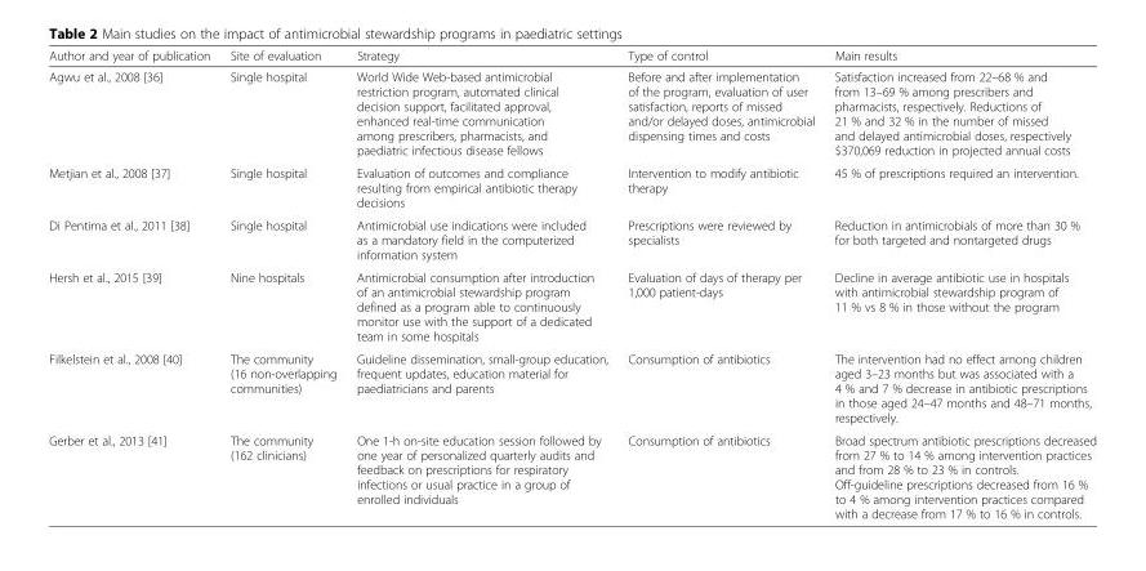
<table><thead><tr><td>Author and year of publication</td><td>Site of evaluation</td><td>Strategy</td><td>Type of control</td><td>Main results</td></tr></thead><tbody><tr><td>Agwu et al., 2008 [36]</td><td>Single hospital</td><td>World Wide Web-based antimicrobial restriction program, automated clinical decision support, facilitated approval, enhanced real-time communication among prescribers, pharmacists, and paediatric infectious disease fellows</td><td>Before and after implementation of the program, evaluation of user satisfaction, reports of missed and/or delayed doses, antimicrobial dispensing times and costs</td><td>Satisfaction increased from 22–68 % and from 13–69 % among prescribers and pharmacists, respectively. Reductions of 21 % and 32 % in the number of missed and delayed antimicrobial doses, respectively $370,069 reduction in projected annual costs</td></tr><tr><td>Metjian et al., 2008 [37]</td><td>Single hospital</td><td>Evaluation of outcomes and compliance resulting from empirical antibiotic therapy decisions</td><td>Intervention to modify antibiotic therapy</td><td>45 % of prescriptions required an intervention.</td></tr><tr><td>Di Pentima et al., 2011 [38]</td><td>Single hospital</td><td>Antimicrobial use indications were included as a mandatory field in the computerized information system</td><td>Prescriptions were reviewed by specialists</td><td>Reduction in antimicrobials of more than 30 % for both targeted and nontargeted drugs</td></tr><tr><td>Hersh et al., 2015 [39]</td><td>Nine hospitals</td><td>Antimicrobial consumption after introduction of an antimicrobial stewardship program defined as a program able to continuously monitor use with the support of a dedicated team in some hospitals</td><td>Evaluation of days of therapy per 1,000 patient-days</td><td>Decline in average antibiotic use in hospitals with antimicrobial stewardship program of 11 % vs 8 % in those without the program</td></tr><tr><td>Filkelstein et al., 2008 [40]</td><td>The community (16 non-overlapping communities)</td><td>Guideline dissemination, small-group education, frequent updates, education material for paediatricians and parents</td><td>Consumption of antibiotics</td><td>The intervention had no effect among children aged 3–23 months but was associated with a 4 % and 7 % decrease in antibiotic prescriptions in those aged 24–47 months and 48–71 months, respectively.</td></tr><tr><td>Gerber et al., 2013 [41]</td><td>The community (162 clinicians)</td><td>One 1-h on-site education session followed by one year of personalized quarterly audits and feedback on prescriptions for respiratory infections or usual practice in a group of enrolled individuals</td><td>Consumption of antibiotics</td><td>Broad spectrum antibiotic prescriptions decreased from 27 % to 14 % among intervention practices and from 28 % to 23 % in controls. Off-guideline prescriptions decreased from 16 % to 4 % among intervention practices compared with a decrease from 17 % to 16 % in controls.</td></tr></tbody></table>